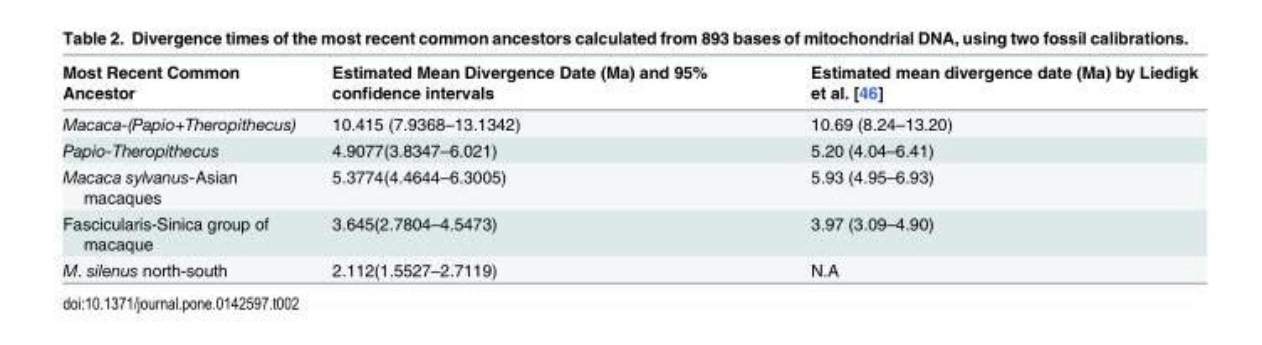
<table><thead><tr><td>Most Recent Common Ancestor</td><td>Estimated Mean Divergence Date (Ma) and 95% confidence intervals</td><td>Estimated mean divergence date (Ma) by Liedigk et al. [46]</td></tr></thead><tbody><tr><td>Macaca-(Papio+Theropithecus)</td><td>10.415 (7.9368–13.1342)</td><td>10.69 (8.24–13.20)</td></tr><tr><td>Papio-Theropithecus</td><td>4.9077(3.8347–6.021)</td><td>5.20 (4.04–6.41)</td></tr><tr><td>Macaca sylvanus-Asian macaques</td><td>5.3774(4.4644–6.3005)</td><td>5.93 (4.95–6.93)</td></tr><tr><td>Fascicularis-Sinica group of macaque</td><td>3.645(2.7804–4.5473)</td><td>3.97 (3.09–4.90)</td></tr><tr><td>M. silenus north-south</td><td>2.112(1.5527–2.7119)</td><td>N.A</td></tr></tbody></table>